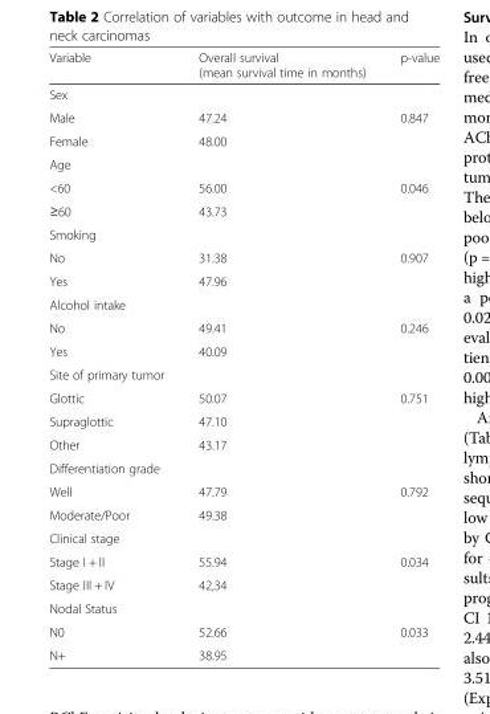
<table><thead><tr><td>Variable</td><td>Overall survival (mean survival time in months)</td><td>p-value</td></tr></thead><tbody><tr><td colspan="3">Sex</td></tr><tr><td>Male</td><td>47.24</td><td>0.847</td></tr><tr><td>Female</td><td>48.00</td><td></td></tr><tr><td colspan="3">Age</td></tr><tr><td>&lt;60</td><td>56.00</td><td>0.046</td></tr><tr><td>≥60</td><td>43.73</td><td></td></tr><tr><td colspan="3">Smoking</td></tr><tr><td>No</td><td>31.38</td><td>0.907</td></tr><tr><td>Yes</td><td>47.96</td><td></td></tr><tr><td colspan="3">Alcohol intake</td></tr><tr><td>No</td><td>49.41</td><td>0.246</td></tr><tr><td>Yes</td><td>40.09</td><td></td></tr><tr><td colspan="3">Site of primary tumor</td></tr><tr><td>Glottic</td><td>50.07</td><td>0.751</td></tr><tr><td>Supraglottic</td><td>47.10</td><td></td></tr><tr><td>Other</td><td>43.17</td><td></td></tr><tr><td colspan="3">Differentiation grade</td></tr><tr><td>Well</td><td>47.79</td><td>0.792</td></tr><tr><td>Moderate/Poor</td><td>49.38</td><td></td></tr><tr><td colspan="3">Clinical stage</td></tr><tr><td>Stage I + II</td><td>55.94</td><td>0.034</td></tr><tr><td>Stage III + IV</td><td>42,34</td><td></td></tr><tr><td colspan="3">Nodal Status</td></tr><tr><td>N0</td><td>52.66</td><td>0.033</td></tr><tr><td>N+</td><td>38.95</td><td></td></tr></tbody></table>